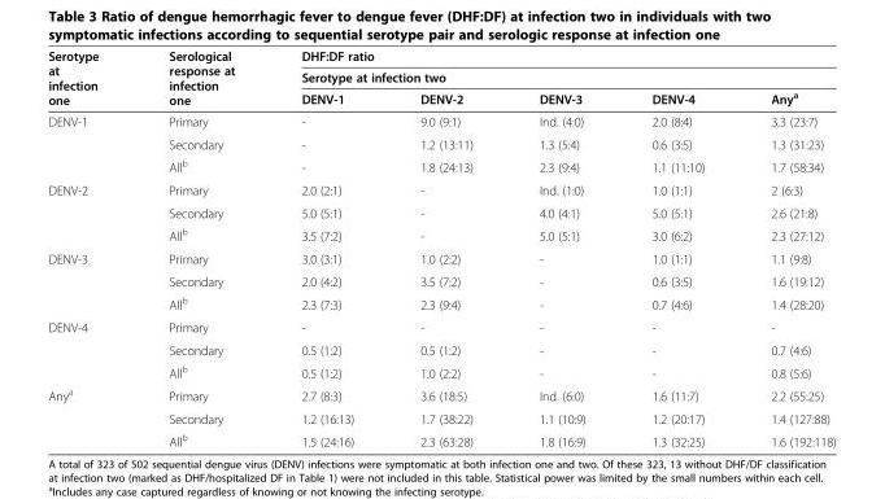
<table><thead><tr><td rowspan="3">Serotype at infection one</td><td rowspan="3">Serological response at infection one</td><td rowspan="2" colspan="5">DHF:DF ratio Serotype at infection two</td></tr><tr></tr><tr><td>DENV-1</td><td>DENV-2</td><td>DENV-3</td><td>DENV-4</td><td>Any<sup>a</sup></td></tr></thead><tbody><tr><td rowspan="3">DENV-1</td><td>Primary</td><td>-</td><td>9.0 (9:1)</td><td>Ind. (4:0)</td><td>2.0 (8:4)</td><td>3.3 (23:7)</td></tr><tr><td>Secondary</td><td>-</td><td>1.2 (13:11)</td><td>1.3 (5:4)</td><td>0.6 (3:5)</td><td>1.3 (31:23)</td></tr><tr><td>All<sup>b</sup></td><td>-</td><td>1.8 (24:13)</td><td>2.3 (9:4)</td><td>1.1 (11:10)</td><td>1.7 (58:34)</td></tr><tr><td rowspan="3">DENV-2</td><td>Primary</td><td>2.0 (2:1)</td><td>-</td><td>Ind. (1:0)</td><td>1.0 (1:1)</td><td>2 (6:3)</td></tr><tr><td>Secondary</td><td>5.0 (5:1)</td><td>-</td><td>4.0 (4:1)</td><td>5.0 (5:1)</td><td>2.6 (21:8)</td></tr><tr><td>All<sup>b</sup></td><td>3.5 (7:2)</td><td>-</td><td>5.0 (5:1)</td><td>3.0 (6:2)</td><td>2.3 (27:12)</td></tr><tr><td rowspan="3">DENV-3</td><td>Primary</td><td>3.0 (3:1)</td><td>1.0 (2:2)</td><td>-</td><td>1.0 (1:1)</td><td>1.1 (9:8)</td></tr><tr><td>Secondary</td><td>2.0 (4:2)</td><td>3.5 (7:2)</td><td>-</td><td>0.6 (3:5)</td><td>1.6 (19:12)</td></tr><tr><td>All<sup>b</sup></td><td>2.3 (7:3)</td><td>2.3 (9:4)</td><td>-</td><td>0.7 (4:6)</td><td>1.4 (28:20)</td></tr><tr><td rowspan="3">DENV-4</td><td>Primary</td><td>-</td><td>-</td><td>-</td><td>-</td><td>-</td></tr><tr><td>Secondary</td><td>0.5 (1:2)</td><td>0.5 (1:2)</td><td>-</td><td>-</td><td>0.7 (4:6)</td></tr><tr><td>All<sup>b</sup></td><td>0.5 (1:2)</td><td>1.0 (2:2)</td><td>-</td><td>-</td><td>0.8 (5:6)</td></tr><tr><td rowspan="3">Any<sup>a</sup></td><td>Primary</td><td>2.7 (8:3)</td><td>3.6 (18:5)</td><td>Ind. (6:0)</td><td>1.6 (11:7)</td><td>2.2 (55:25)</td></tr><tr><td>Secondary</td><td>1.2 (16:13)</td><td>1.7 (38:22)</td><td>1.1 (10:9)</td><td>1.2 (20:17)</td><td>1.4 (127:88)</td></tr><tr><td>All<sup>b</sup></td><td>1.5 (24:16)</td><td>2.3 (63:28)</td><td>1.8 (16:9)</td><td>1.3 (32:25)</td><td>1.6 (192:118)</td></tr></tbody></table>